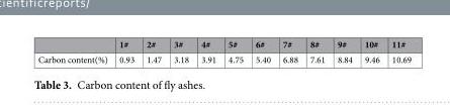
<table><thead><tr><td></td><td>1#</td><td>2#</td><td>3#</td><td>4#</td><td>5#</td><td>6#</td><td>7#</td><td>8#</td><td>9#</td><td>10#</td><td>11#</td></tr></thead><tbody><tr><td>Carbon content(%)</td><td>0.93</td><td>1.47</td><td>3.18</td><td>3.91</td><td>4.75</td><td>5.40</td><td>6.88</td><td>7.61</td><td>8.84</td><td>9.46</td><td>10.69</td></tr></tbody></table>